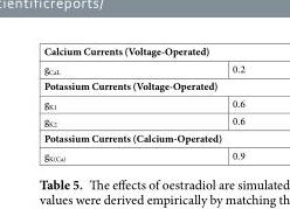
<table><tbody><tr><td colspan="2">Calcium Currents (Voltage-Operated)</td></tr><tr><td>g<sub>CaL</sub></td><td>0.2</td></tr><tr><td colspan="2">Potassium Currents (Voltage-Operated)</td></tr><tr><td>g<sub>K1</sub></td><td>0.6</td></tr><tr><td>g<sub>K2</sub></td><td>0.6</td></tr><tr><td colspan="2">Potassium Currents (Calcium-Operated)</td></tr><tr><td>g<sub>K(Ca)</sub></td><td>0.9</td></tr></tbody></table>